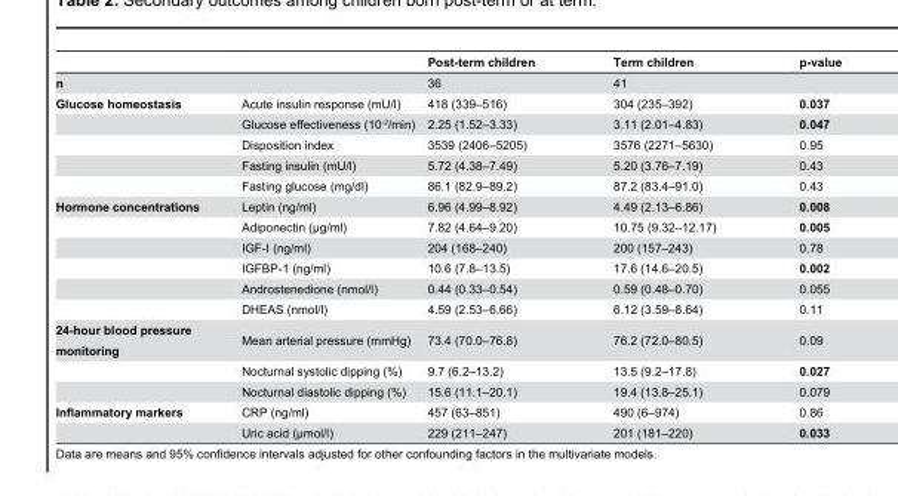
<table><thead><tr><td></td><td></td><td>Post-term children</td><td>Term children</td><td>p-value</td></tr></thead><tbody><tr><td>n</td><td></td><td>36</td><td>41</td><td></td></tr><tr><td rowspan="5">Glucose homeostasis</td><td>Acute insulin response (mU/l)</td><td>418 (339–516)</td><td>304 (235–392)</td><td>0.037</td></tr><tr><td>Glucose effectiveness (10<sup>-2</sup>/min)</td><td>2.25 (1.52–3.33)</td><td>3.11 (2.01–4.83)</td><td>0.047</td></tr><tr><td>Disposition index</td><td>3539 (2406–5205)</td><td>3576 (2271–5630)</td><td>0.95</td></tr><tr><td>Fasting insulin (mU/l)</td><td>5.72 (4.38–7.49)</td><td>5.20 (3.76–7.19)</td><td>0.43</td></tr><tr><td>Fasting glucose (mg/dl)</td><td>86.1 (82.9–89.2)</td><td>87.2 (83.4–91.0)</td><td>0.43</td></tr><tr><td rowspan="6">Hormone concentrations</td><td>Leptin (ng/ml)</td><td>6.96 (4.99–8.92)</td><td>4.49 (2.13–6.86)</td><td>0.008</td></tr><tr><td>Adiponectin (μg/ml)</td><td>7.82 (4.64–9.20)</td><td>10.75 (9.32–12.17)</td><td>0.005</td></tr><tr><td>IGF-I (ng/ml)</td><td>204 (168–240)</td><td>200 (157–243)</td><td>0.78</td></tr><tr><td>IGFBP-1 (ng/ml)</td><td>10.6 (7.8–13.5)</td><td>17.6 (14.6–20.5)</td><td>0.002</td></tr><tr><td>Androstenedione (nmol/l)</td><td>0.44 (0.33–0.54)</td><td>0.59 (0.48–0.70)</td><td>0.055</td></tr><tr><td>DHEAS (nmol/l)</td><td>4.59 (2.53–6.66)</td><td>6.12 (3.59–8.64)</td><td>0.11</td></tr><tr><td rowspan="3">24-hour blood pressure monitoring</td><td>Mean arterial pressure (mmHg)</td><td>73.4 (70.0–76.8)</td><td>76.2 (72.0–80.5)</td><td>0.09</td></tr><tr><td>Nocturnal systolic dipping (%)</td><td>9.7 (6.2–13.2)</td><td>13.5 (9.2–17.8)</td><td>0.027</td></tr><tr><td>Nocturnal diastolic dipping (%)</td><td>15.6 (11.1–20.1)</td><td>19.4 (13.8–25.1)</td><td>0.079</td></tr><tr><td rowspan="2">Inflammatory markers</td><td>CRP (ng/ml)</td><td>457 (63–851)</td><td>490 (6–974)</td><td>0.86</td></tr><tr><td>Uric acid (μmol/l)</td><td>229 (211–247)</td><td>201 (181–220)</td><td>0.033</td></tr></tbody></table>